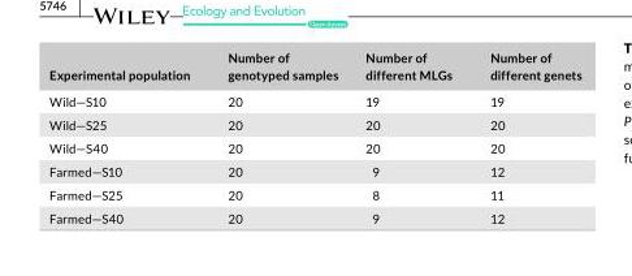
<table><thead><tr><td>Experimental population</td><td>Number of genotyped samples</td><td>Number of different MLGs</td><td>Number of different genets</td></tr></thead><tbody><tr><td>Wild—S10</td><td>20</td><td>19</td><td>19</td></tr><tr><td>Wild—S25</td><td>20</td><td>20</td><td>20</td></tr><tr><td>Wild—S40</td><td>20</td><td>20</td><td>20</td></tr><tr><td>Farmed—S10</td><td>20</td><td>9</td><td>12</td></tr><tr><td>Farmed—S25</td><td>20</td><td>8</td><td>11</td></tr><tr><td>Farmed—S40</td><td>20</td><td>9</td><td>12</td></tr></tbody></table>